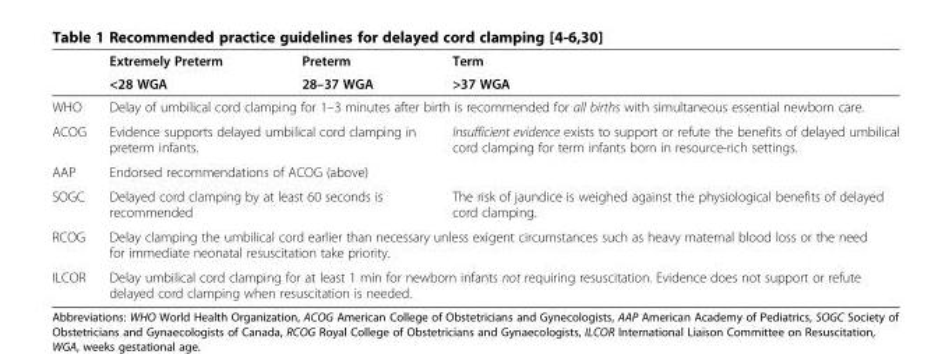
<table><thead><tr><td rowspan="2"></td><td rowspan="2">Extremely Preterm &lt;28 WGA</td><td rowspan="2">Preterm 28–37 WGA</td><td rowspan="2">Term &gt;37 WGA</td></tr><tr></tr></thead><tbody><tr><td>WHO</td><td colspan="3">Delay of umbilical cord clamping for 1–3 minutes after birth is recommended for all births with simultaneous essential newborn care.</td></tr><tr><td>ACOG</td><td colspan="2">Evidence supports delayed umbilical cord clamping in preterm infants.</td><td>Insufficient evidence exists to support or refute the benefits of delayed umbilical cord clamping for term infants born in resource-rich settings.</td></tr><tr><td>AAP</td><td colspan="3">Endorsed recommendations of ACOG (above)</td></tr><tr><td>SOGC</td><td colspan="2">Delayed cord clamping by at least 60 seconds is recommended</td><td>The risk of jaundice is weighed against the physiological benefits of delayed cord clamping.</td></tr><tr><td>RCOG</td><td colspan="3">Delay clamping the umbilical cord earlier than necessary unless exigent circumstances such as heavy maternal blood loss or the need for immediate neonatal resuscitation take priority.</td></tr><tr><td>ILCOR</td><td colspan="3">Delay umbilical cord clamping for at least 1 min for newborn infants not requiring resuscitation. Evidence does not support or refute delayed cord clamping when resuscitation is needed.</td></tr></tbody></table>